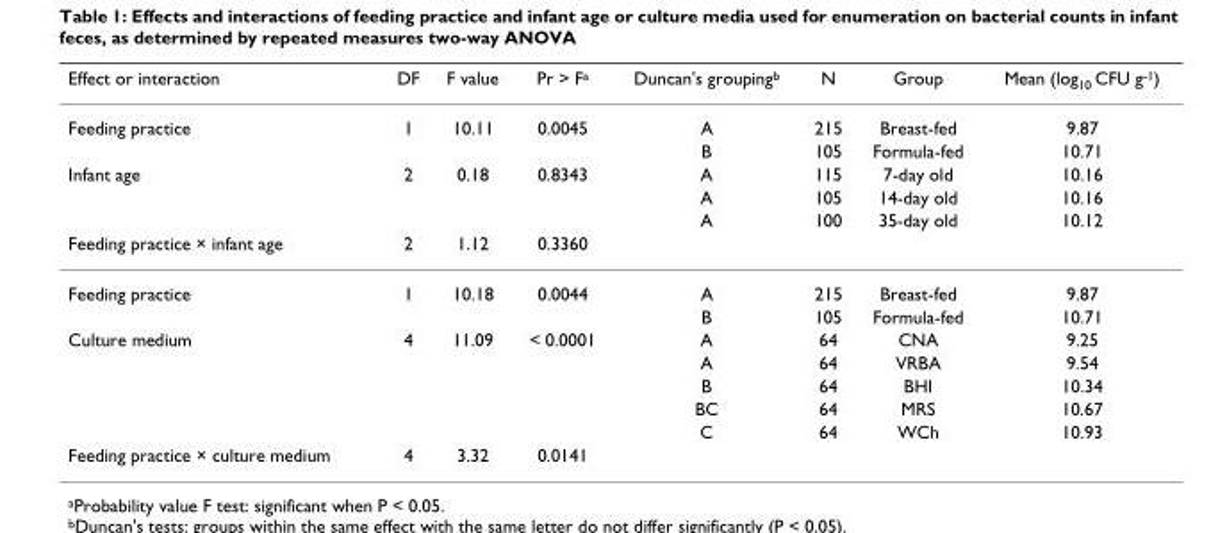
<table><thead><tr><td>Effect or interaction</td><td>DF</td><td>F value</td><td>Pr &gt; F<sup>a</sup></td><td>Duncan&#x27;s grouping<sup>b</sup></td><td>N</td><td>Group</td><td>Mean (log<sub>10</sub> CFU g<sup>-1</sup>)</td></tr></thead><tbody><tr><td rowspan="2">Feeding practice</td><td>1</td><td>10.11</td><td>0.0045</td><td>A</td><td>215</td><td>Breast-fed</td><td>9.87</td></tr><tr><td></td><td></td><td></td><td>B</td><td>105</td><td>Formula-fed</td><td>10.71</td></tr><tr><td rowspan="3">Infant age</td><td>2</td><td>0.18</td><td>0.8343</td><td>A</td><td>115</td><td>7-day old</td><td>10.16</td></tr><tr><td></td><td></td><td></td><td>A</td><td>105</td><td>14-day old</td><td>10.16</td></tr><tr><td></td><td></td><td></td><td>A</td><td>100</td><td>35-day old</td><td>10.12</td></tr><tr><td>Feeding practice × infant age</td><td>2</td><td>1.12</td><td>0.3360</td><td></td><td></td><td></td><td></td></tr><tr><td rowspan="2">Feeding practice</td><td>1</td><td>10.18</td><td>0.0044</td><td>A</td><td>215</td><td>Breast-fed</td><td>9.87</td></tr><tr><td></td><td></td><td></td><td>B</td><td>105</td><td>Formula-fed</td><td>10.71</td></tr><tr><td rowspan="5">Culture medium</td><td>4</td><td>11.09</td><td>&lt; 0.0001</td><td>A</td><td>64</td><td>CNA</td><td>9.25</td></tr><tr><td></td><td></td><td></td><td>A</td><td>64</td><td>VRBA</td><td>9.54</td></tr><tr><td></td><td></td><td></td><td>B</td><td>64</td><td>BHI</td><td>10.34</td></tr><tr><td></td><td></td><td></td><td>BC</td><td>64</td><td>MRS</td><td>10.67</td></tr><tr><td></td><td></td><td></td><td>C</td><td>64</td><td>WCh</td><td>10.93</td></tr><tr><td>Feeding practice × culture medium</td><td>4</td><td>3.32</td><td>0.0141</td><td></td><td></td><td></td><td></td></tr></tbody></table>